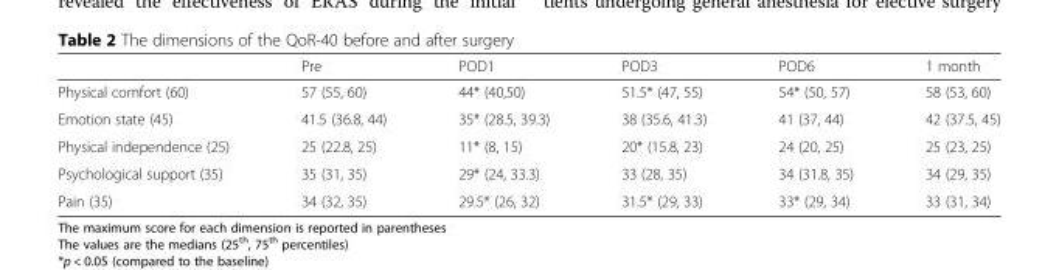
<table><thead><tr><td></td><td>Pre</td><td>POD1</td><td>POD3</td><td>POD6</td><td>1 month</td></tr></thead><tbody><tr><td>Physical comfort (60)</td><td>57 (55, 60)</td><td>44* (40,50)</td><td>51.5* (47, 55)</td><td>54* (50, 57)</td><td>58 (53, 60)</td></tr><tr><td>Emotion state (45)</td><td>41.5 (36.8, 44)</td><td>35* (28.5, 39.3)</td><td>38 (35.6, 41.3)</td><td>41 (37, 44)</td><td>42 (37.5, 45)</td></tr><tr><td>Physical independence (25)</td><td>25 (22.8, 25)</td><td>11* (8, 15)</td><td>20* (15.8, 23)</td><td>24 (20, 25)</td><td>25 (23, 25)</td></tr><tr><td>Psychological support (35)</td><td>35 (31, 35)</td><td>29* (24, 33.3)</td><td>33 (28, 35)</td><td>34 (31.8, 35)</td><td>34 (29, 35)</td></tr><tr><td>Pain (35)</td><td>34 (32, 35)</td><td>29.5* (26, 32)</td><td>31.5* (29, 33)</td><td>33* (29, 34)</td><td>33 (31, 34)</td></tr></tbody></table>